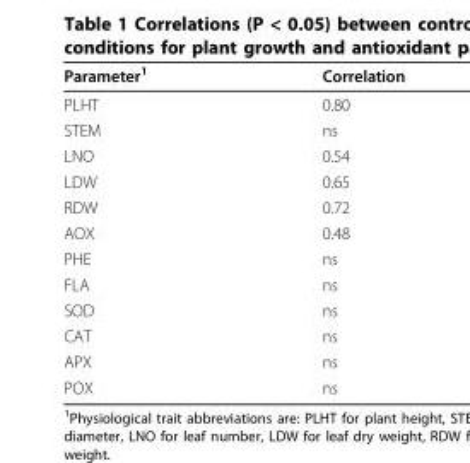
<table><thead><tr><td>Parameter<sup>1</sup></td><td>Correlation</td></tr></thead><tbody><tr><td>PLHT</td><td>0.80</td></tr><tr><td>STEM</td><td>ns</td></tr><tr><td>LNO</td><td>0.54</td></tr><tr><td>LDW</td><td>0.65</td></tr><tr><td>RDW</td><td>0.72</td></tr><tr><td>AOX</td><td>0.48</td></tr><tr><td>PHE</td><td>ns</td></tr><tr><td>FLA</td><td>ns</td></tr><tr><td>SOD</td><td>ns</td></tr><tr><td>CAT</td><td>ns</td></tr><tr><td>APX</td><td>ns</td></tr><tr><td>POX</td><td>ns</td></tr></tbody></table>